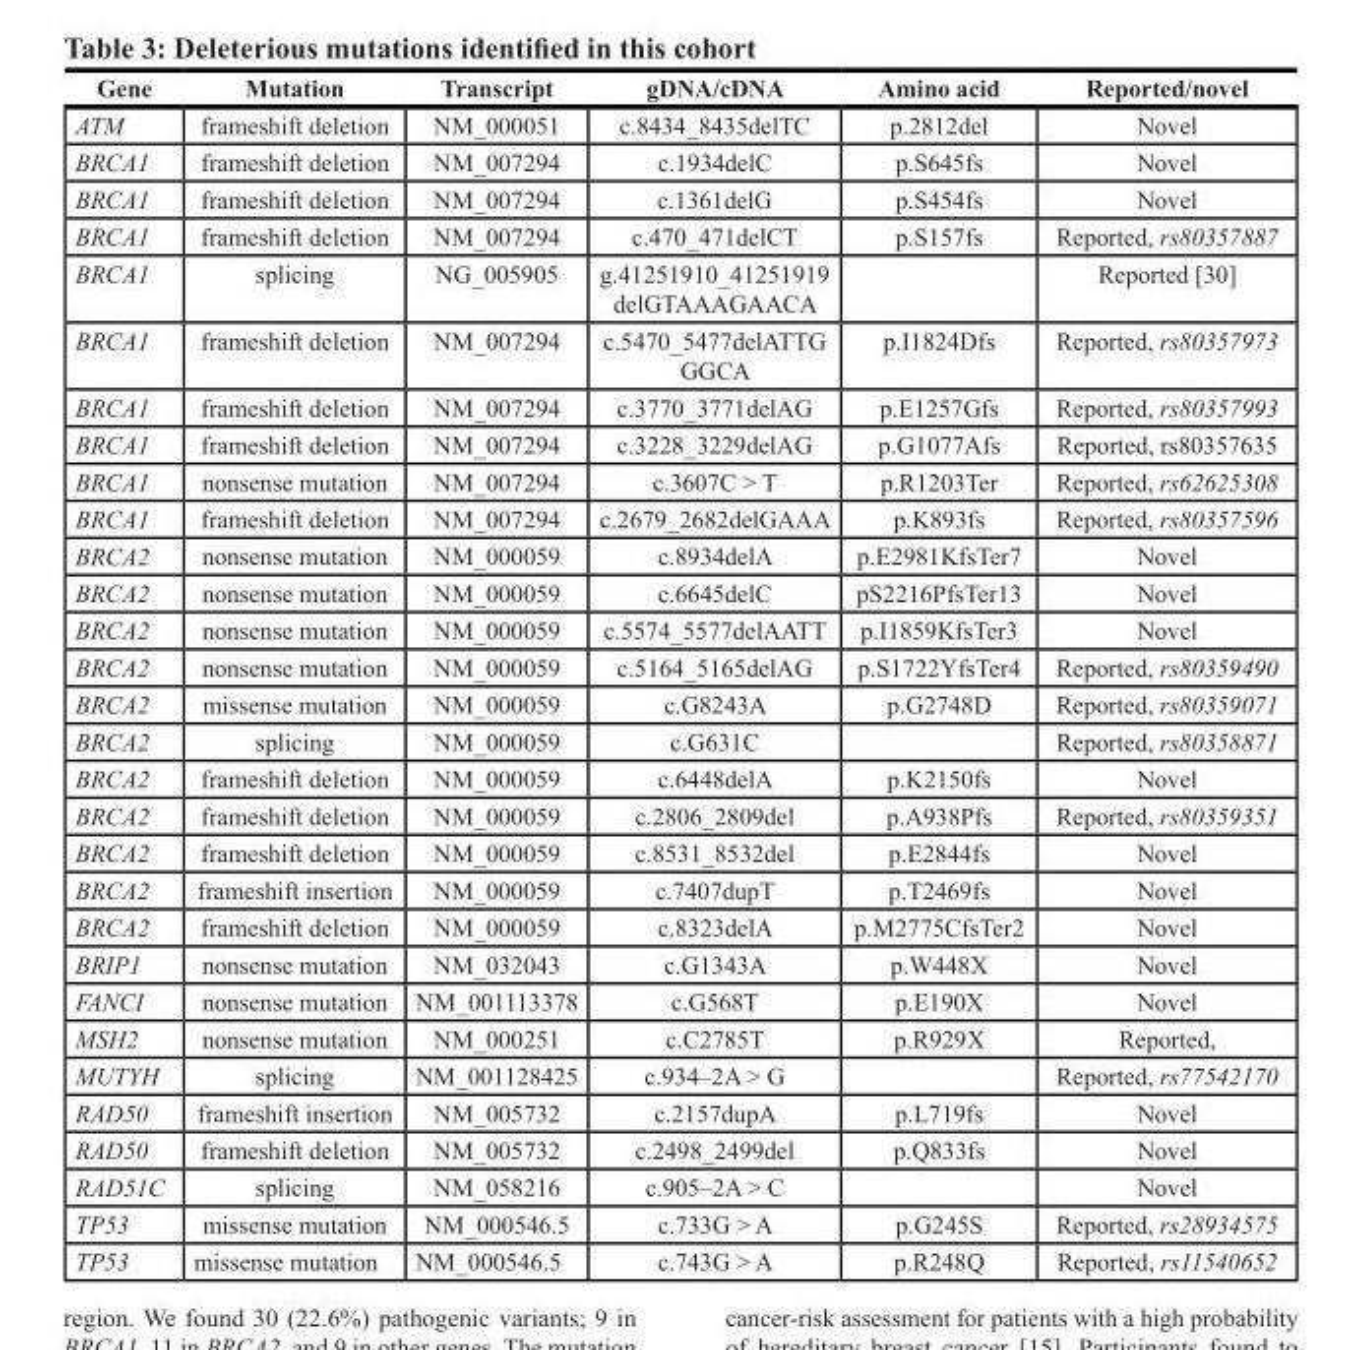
<table><thead><tr><td>Gene</td><td>Mutation</td><td>Transcript</td><td>gDNA/cDNA</td><td>Amino acid</td><td>Reported/novel</td></tr></thead><tbody><tr><td>ATM</td><td>frameshift deletion</td><td>NM_000051</td><td>c.8434_8435delTC</td><td>p.2812del</td><td>Novel</td></tr><tr><td>BRCA1</td><td>frameshift deletion</td><td>NM_007294</td><td>c.1934delC</td><td>p.S645fs</td><td>Novel</td></tr><tr><td>BRCA1</td><td>frameshift deletion</td><td>NM_007294</td><td>c.1361delG</td><td>p.S454fs</td><td>Novel</td></tr><tr><td>BRCA1</td><td>frameshift deletion</td><td>NM_007294</td><td>c.470_471delCT</td><td>p.S157fs</td><td>Reported, rs80357887</td></tr><tr><td>BRCA1</td><td>splicing</td><td>NG_005905</td><td>g.41251910_41251919 delGTAAAGAACA</td><td></td><td>Reported [30]</td></tr><tr><td>BRCA1</td><td>frameshift deletion</td><td>NM_007294</td><td>c.5470_5477delATTG GGCA</td><td>p.I1824Dfs</td><td>Reported, rs80357973</td></tr><tr><td>BRCA1</td><td>frameshift deletion</td><td>NM_007294</td><td>c.3770_3771delAG</td><td>p.E1257Gfs</td><td>Reported, rs80357993</td></tr><tr><td>BRCA1</td><td>frameshift deletion</td><td>NM_007294</td><td>c.3228_3229delAG</td><td>p.G1077Afs</td><td>Reported, rs80357635</td></tr><tr><td>BRCA1</td><td>nonsense mutation</td><td>NM_007294</td><td>c.3607C &gt; T</td><td>p.R1203Ter</td><td>Reported, rs62625308</td></tr><tr><td>BRCA1</td><td>frameshift deletion</td><td>NM_007294</td><td>c.2679_2682delGAAA</td><td>p.K893fs</td><td>Reported, rs80357596</td></tr><tr><td>BRCA2</td><td>nonsense mutation</td><td>NM_000059</td><td>c.8934delA</td><td>p.E2981KfsTer7</td><td>Novel</td></tr><tr><td>BRCA2</td><td>nonsense mutation</td><td>NM_000059</td><td>c.6645delC</td><td>pS2216PfsTer13</td><td>Novel</td></tr><tr><td>BRCA2</td><td>nonsense mutation</td><td>NM_000059</td><td>c.5574_5577delAATT</td><td>p.I1859KfsTer3</td><td>Novel</td></tr><tr><td>BRCA2</td><td>nonsense mutation</td><td>NM_000059</td><td>c.5164_5165delAG</td><td>p.S1722YfsTer4</td><td>Reported, rs80359490</td></tr><tr><td>BRCA2</td><td>missense mutation</td><td>NM_000059</td><td>c.G8243A</td><td>p.G2748D</td><td>Reported, rs80359071</td></tr><tr><td>BRCA2</td><td>splicing</td><td>NM_000059</td><td>c.G631C</td><td></td><td>Reported, rs80358871</td></tr><tr><td>BRCA2</td><td>frameshift deletion</td><td>NM_000059</td><td>c.6448delA</td><td>p.K2150fs</td><td>Novel</td></tr><tr><td>BRCA2</td><td>frameshift deletion</td><td>NM_000059</td><td>c.2806_2809del</td><td>p.A938Pfs</td><td>Reported, rs80359351</td></tr><tr><td>BRCA2</td><td>frameshift deletion</td><td>NM_000059</td><td>c.8531_8532del</td><td>p.E2844fs</td><td>Novel</td></tr><tr><td>BRCA2</td><td>frameshift insertion</td><td>NM_000059</td><td>c.7407dupT</td><td>p.T2469fs</td><td>Novel</td></tr><tr><td>BRCA2</td><td>frameshift deletion</td><td>NM_000059</td><td>c.8323delA</td><td>p.M2775CfsTer2</td><td>Novel</td></tr><tr><td>BRIP1</td><td>nonsense mutation</td><td>NM_032043</td><td>c.G1343A</td><td>p.W448X</td><td>Novel</td></tr><tr><td>FANCI</td><td>nonsense mutation</td><td>NM_001113378</td><td>c.G568T</td><td>p.E190X</td><td>Novel</td></tr><tr><td>MSH2</td><td>nonsense mutation</td><td>NM_000251</td><td>c.C2785T</td><td>p.R929X</td><td>Reported,</td></tr><tr><td>MUTYH</td><td>splicing</td><td>NM_001128425</td><td>c.934–2A &gt; G</td><td></td><td>Reported, rs77542170</td></tr><tr><td>RAD50</td><td>frameshift insertion</td><td>NM_005732</td><td>c.2157dupA</td><td>p.L719fs</td><td>Novel</td></tr><tr><td>RAD50</td><td>frameshift deletion</td><td>NM_005732</td><td>c.2498_2499del</td><td>p.Q833fs</td><td>Novel</td></tr><tr><td>RAD51C</td><td>splicing</td><td>NM_058216</td><td>c.905–2A &gt; C</td><td></td><td>Novel</td></tr><tr><td>TP53</td><td>missense mutation</td><td>NM_000546.5</td><td>c.733G &gt; A</td><td>p.G245S</td><td>Reported, rs28934575</td></tr><tr><td>TP53</td><td>missense mutation</td><td>NM_000546.5</td><td>c.743G &gt; A</td><td>p.R248Q</td><td>Reported, rs11540652</td></tr></tbody></table>